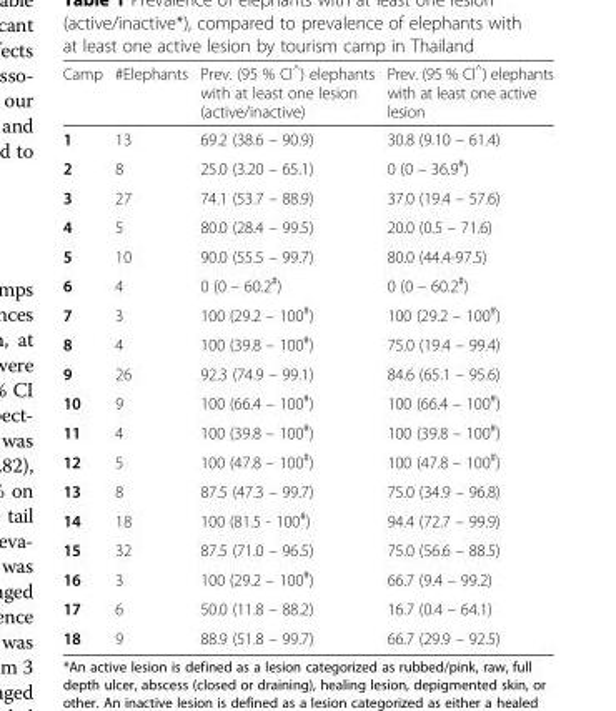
<table><thead><tr><td>Camp</td><td>#Elephants</td><td>Prev. (95 % CI<sup>^</sup>) elephants with at least one lesion (active/inactive)</td><td>Prev. (95 % CI<sup>^</sup>) elephants with at least one active lesion</td></tr></thead><tbody><tr><td>1</td><td>13</td><td>69.2 (38.6 – 90.9)</td><td>30.8 (9.10 – 61.4)</td></tr><tr><td>2</td><td>8</td><td>25.0 (3.20 – 65.1)</td><td>0 (0 – 36.9<sup>#</sup>)</td></tr><tr><td>3</td><td>27</td><td>74.1 (53.7 – 88.9)</td><td>37.0 (19.4 – 57.6)</td></tr><tr><td>4</td><td>5</td><td>80.0 (28.4 – 99.5)</td><td>20.0 (0.5 – 71.6)</td></tr><tr><td>5</td><td>10</td><td>90.0 (55.5 – 99.7)</td><td>80.0 (44.4-97.5)</td></tr><tr><td>6</td><td>4</td><td>0 (0 – 60.2<sup>#</sup>)</td><td>0 (0 – 60.2<sup>#</sup>)</td></tr><tr><td>7</td><td>3</td><td>100 (29.2 – 100<sup>#</sup>)</td><td>100 (29.2 – 100<sup>#</sup>)</td></tr><tr><td>8</td><td>4</td><td>100 (39.8 – 100<sup>#</sup>)</td><td>75.0 (19.4 – 99.4)</td></tr><tr><td>9</td><td>26</td><td>92.3 (74.9 – 99.1)</td><td>84.6 (65.1 – 95.6)</td></tr><tr><td>10</td><td>9</td><td>100 (66.4 – 100<sup>#</sup>)</td><td>100 (66.4 – 100<sup>#</sup>)</td></tr><tr><td>11</td><td>4</td><td>100 (39.8 – 100<sup>#</sup>)</td><td>100 (39.8 – 100<sup>#</sup>)</td></tr><tr><td>12</td><td>5</td><td>100 (47.8 – 100<sup>#</sup>)</td><td>100 (47.8 – 100<sup>#</sup>)</td></tr><tr><td>13</td><td>8</td><td>87.5 (47.3 – 99.7)</td><td>75.0 (34.9 – 96.8)</td></tr><tr><td>14</td><td>18</td><td>100 (81.5 - 100<sup>#</sup>)</td><td>94.4 (72.7 – 99.9)</td></tr><tr><td>15</td><td>32</td><td>87.5 (71.0 – 96.5)</td><td>75.0 (56.6 – 88.5)</td></tr><tr><td>16</td><td>3</td><td>100 (29.2 – 100<sup>#</sup>)</td><td>66.7 (9.4 – 99.2)</td></tr><tr><td>17</td><td>6</td><td>50.0 (11.8 – 88.2)</td><td>16.7 (0.4 – 64.1)</td></tr><tr><td>18</td><td>9</td><td>88.9 (51.8 – 99.7)</td><td>66.7 (29.9 – 92.5)</td></tr></tbody></table>